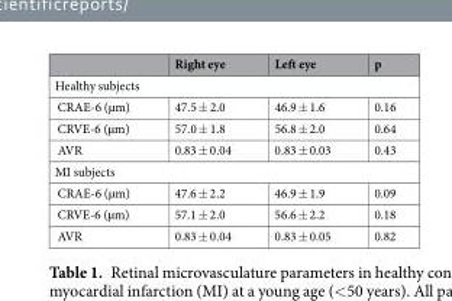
<table><thead><tr><td></td><td>Right eye</td><td>Left eye</td><td>p</td></tr></thead><tbody><tr><td colspan="4">Healthy subjects</td></tr><tr><td>CRAE-6 (µm)</td><td>47.5 ± 2.0</td><td>46.9 ± 1.6</td><td>0.16</td></tr><tr><td>CRVE-6 (µm)</td><td>57.0 ± 1.8</td><td>56.8 ± 2.0</td><td>0.64</td></tr><tr><td>AVR</td><td>0.83 ± 0.04</td><td>0.83 ± 0.03</td><td>0.43</td></tr><tr><td colspan="4">MI subjects</td></tr><tr><td>CRAE-6 (µm)</td><td>47.6 ± 2.2</td><td>46.9 ± 1.9</td><td>0.09</td></tr><tr><td>CRVE-6 (µm)</td><td>57.1 ± 2.0</td><td>56.6 ± 2.2</td><td>0.18</td></tr><tr><td>AVR</td><td>0.83 ± 0.04</td><td>0.83 ± 0.05</td><td>0.82</td></tr></tbody></table>